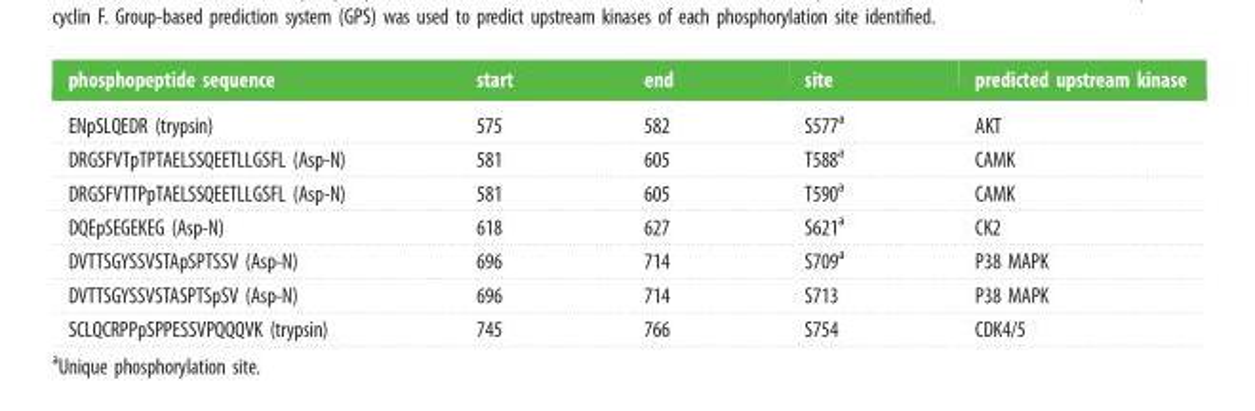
<table><thead><tr><td>phosphopeptide sequence</td><td>start</td><td>end</td><td>site</td><td>predicted upstream kinase</td></tr></thead><tbody><tr><td>ENpSLQEDR (trypsin)</td><td>575</td><td>582</td><td>S577<sup>a</sup></td><td>AKT</td></tr><tr><td>DRGSFVTpTPTAELSSQEETLLGSFL (Asp-N)</td><td>581</td><td>605</td><td>T588<sup>a</sup></td><td>CAMK</td></tr><tr><td>DRGSFVTTPpTAELSSQEETLLGSFL (Asp-N)</td><td>581</td><td>605</td><td>T590<sup>a</sup></td><td>CAMK</td></tr><tr><td>DQEpSEGEKEG (Asp-N)</td><td>618</td><td>627</td><td>S621<sup>a</sup></td><td>CK2</td></tr><tr><td>DVTTSGYSSVSTApSPTSSV (Asp-N)</td><td>696</td><td>714</td><td>S709<sup>a</sup></td><td>P38 MAPK</td></tr><tr><td>DVTTSGYSSVSTASPTSpSV (Asp-N)</td><td>696</td><td>714</td><td>S713</td><td>P38 MAPK</td></tr><tr><td>SCLQCRPPpSPPESSVPQQQVK (trypsin)</td><td>745</td><td>766</td><td>S754</td><td>CDK4/5</td></tr></tbody></table>